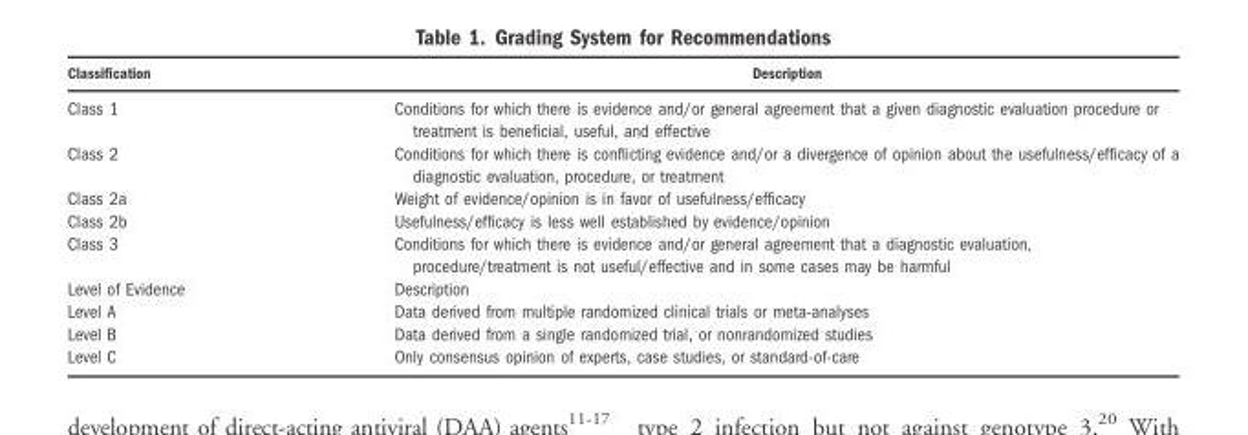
<table><thead><tr><td>Classification</td><td>Description</td></tr></thead><tbody><tr><td>Class 1</td><td>Conditions for which there is evidence and/or general agreement that a given diagnostic evaluation procedure or treatment is beneficial, useful, and effective</td></tr><tr><td>Class 2</td><td>Conditions for which there is conflicting evidence and/or a divergence of opinion about the usefulness/efficacy of a diagnostic evaluation, procedure, or treatment</td></tr><tr><td>Class 2a</td><td>Weight of evidence/opinion is in favor of usefulness/efficacy</td></tr><tr><td>Class 2b</td><td>Usefulness/efficacy is less well established by evidence/opinion</td></tr><tr><td>Class 3</td><td>Conditions for which there is evidence and/or general agreement that a diagnostic evaluation, procedure/treatment is not useful/effective and in some cases may be harmful</td></tr><tr><td>Level of Evidence</td><td>Description</td></tr><tr><td>Level A</td><td>Data derived from multiple randomized clinical trials or meta-analyses</td></tr><tr><td>Level B</td><td>Data derived from a single randomized trial, or nonrandomized studies</td></tr><tr><td>Level C</td><td>Only consensus opinion of experts, case studies, or standard-of-care</td></tr></tbody></table>